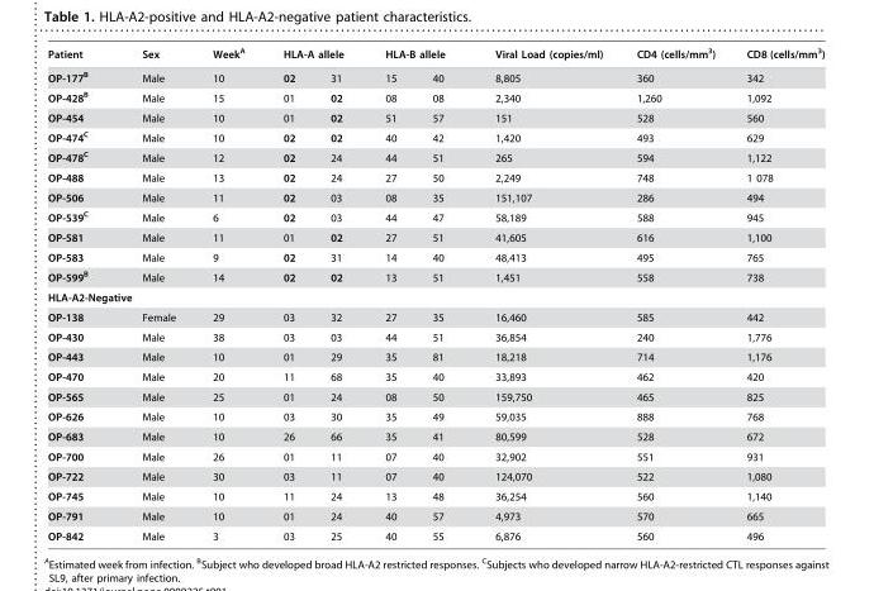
<table><thead><tr><td rowspan="2">Patient OP-177B</td><td rowspan="2">Sex Male</td><td rowspan="2">Week<sup>A</sup> 10</td><td colspan="2">HLA-A allele</td><td colspan="2">HLA-B allele</td><td rowspan="2">Viral Load (copies/ml) 8,805</td><td rowspan="2">CD4 (cells/mm<sup>3</sup>) 360</td><td rowspan="2">CD8 (cells/mm<sup>3</sup>) 342</td></tr><tr><td>02</td><td>31</td><td>15</td><td>40</td></tr></thead><tbody><tr><td>OP-428B</td><td>Male</td><td>15</td><td>01</td><td>02</td><td>08</td><td>08</td><td>2,340</td><td>1,260</td><td>1,092</td></tr><tr><td>OP-454</td><td>Male</td><td>10</td><td>01</td><td>02</td><td>51</td><td>57</td><td>151</td><td>528</td><td>560</td></tr><tr><td>OP-474C</td><td>Male</td><td>10</td><td>02</td><td>02</td><td>40</td><td>42</td><td>1,420</td><td>493</td><td>629</td></tr><tr><td>OP-478C</td><td>Male</td><td>12</td><td>02</td><td>24</td><td>44</td><td>51</td><td>265</td><td>594</td><td>1,122</td></tr><tr><td>OP-488</td><td>Male</td><td>13</td><td>02</td><td>24</td><td>27</td><td>50</td><td>2,249</td><td>748</td><td>1 078</td></tr><tr><td>OP-506</td><td>Male</td><td>11</td><td>02</td><td>03</td><td>08</td><td>35</td><td>151,107</td><td>286</td><td>494</td></tr><tr><td>OP-539C</td><td>Male</td><td>6</td><td>02</td><td>03</td><td>44</td><td>47</td><td>58,189</td><td>588</td><td>945</td></tr><tr><td>OP-581</td><td>Male</td><td>11</td><td>01</td><td>02</td><td>27</td><td>51</td><td>41,605</td><td>616</td><td>1,100</td></tr><tr><td>OP-583</td><td>Male</td><td>9</td><td>02</td><td>31</td><td>14</td><td>40</td><td>48,413</td><td>495</td><td>765</td></tr><tr><td>OP-599B</td><td>Male</td><td>14</td><td>02</td><td>02</td><td>13</td><td>51</td><td>1,451</td><td>558</td><td>738</td></tr><tr><td colspan="10">HLA-A2-Negative</td></tr><tr><td>OP-138</td><td>Female</td><td>29</td><td>03</td><td>32</td><td>27</td><td>35</td><td>16,460</td><td>585</td><td>442</td></tr><tr><td>OP-430</td><td>Male</td><td>38</td><td>03</td><td>03</td><td>44</td><td>51</td><td>36,854</td><td>240</td><td>1,776</td></tr><tr><td>OP-443</td><td>Male</td><td>10</td><td>01</td><td>29</td><td>35</td><td>81</td><td>18,218</td><td>714</td><td>1,176</td></tr><tr><td>OP-470</td><td>Male</td><td>20</td><td>11</td><td>68</td><td>35</td><td>40</td><td>33,893</td><td>462</td><td>420</td></tr><tr><td>OP-565</td><td>Male</td><td>25</td><td>01</td><td>24</td><td>08</td><td>50</td><td>159,750</td><td>465</td><td>825</td></tr><tr><td>OP-626</td><td>Male</td><td>10</td><td>03</td><td>30</td><td>35</td><td>49</td><td>59,035</td><td>888</td><td>768</td></tr><tr><td>OP-683</td><td>Male</td><td>10</td><td>26</td><td>66</td><td>35</td><td>41</td><td>80,599</td><td>528</td><td>672</td></tr><tr><td>OP-700</td><td>Male</td><td>26</td><td>01</td><td>11</td><td>07</td><td>40</td><td>32,902</td><td>551</td><td>931</td></tr><tr><td>OP-722</td><td>Male</td><td>30</td><td>03</td><td>11</td><td>07</td><td>40</td><td>124,070</td><td>522</td><td>1,080</td></tr><tr><td>OP-745</td><td>Male</td><td>10</td><td>11</td><td>24</td><td>13</td><td>48</td><td>36,254</td><td>560</td><td>1,140</td></tr><tr><td>OP-791</td><td>Male</td><td>10</td><td>01</td><td>24</td><td>40</td><td>57</td><td>4,973</td><td>570</td><td>665</td></tr><tr><td>OP-842</td><td>Male</td><td>3</td><td>03</td><td>25</td><td>40</td><td>55</td><td>6,876</td><td>560</td><td>496</td></tr></tbody></table>